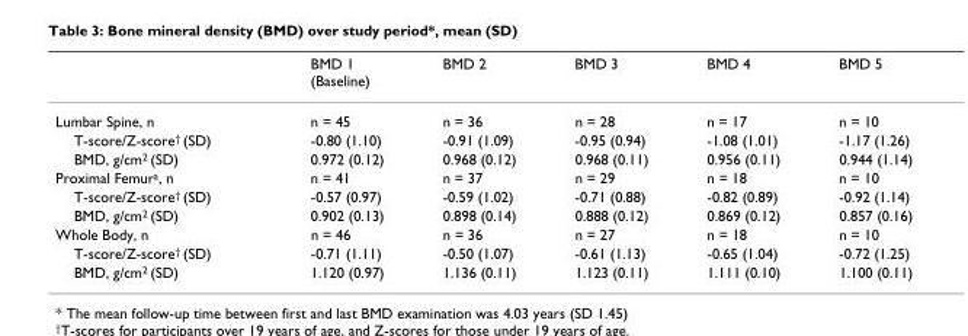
<table><thead><tr><td></td><td>BMD 1 (Baseline)</td><td>BMD 2</td><td>BMD 3</td><td>BMD 4</td><td>BMD 5</td></tr></thead><tbody><tr><td>Lumbar Spine, n</td><td>n = 45</td><td>n = 36</td><td>n = 28</td><td>n = 17</td><td>n = 10</td></tr><tr><td>T-score/Z-score<sup>†</sup> (SD)</td><td>-0.80 (1.10)</td><td>-0.91 (1.09)</td><td>-0.95 (0.94)</td><td>-1.08 (1.01)</td><td>-1.17 (1.26)</td></tr><tr><td>BMD, g/cm<sup>2</sup> (SD)</td><td>0.972 (0.12)</td><td>0.968 (0.12)</td><td>0.968 (0.11)</td><td>0.956 (0.11)</td><td>0.944 (1.14)</td></tr><tr><td>Proximal Femur<sup>a</sup>, n</td><td>n = 41</td><td>n = 37</td><td>n = 29</td><td>n = 18</td><td>n = 10</td></tr><tr><td>T-score/Z-score<sup>†</sup> (SD)</td><td>-0.57 (0.97)</td><td>-0.59 (1.02)</td><td>-0.71 (0.88)</td><td>-0.82 (0.89)</td><td>-0.92 (1.14)</td></tr><tr><td>BMD, g/cm<sup>2</sup> (SD)</td><td>0.902 (0.13)</td><td>0.898 (0.14)</td><td>0.888 (0.12)</td><td>0.869 (0.12)</td><td>0.857 (0.16)</td></tr><tr><td>Whole Body, n</td><td>n = 46</td><td>n = 36</td><td>n = 27</td><td>n = 18</td><td>n = 10</td></tr><tr><td>T-score/Z-score<sup>†</sup> (SD)</td><td>-0.71 (1.11)</td><td>-0.50 (1.07)</td><td>-0.61 (1.13)</td><td>-0.65 (1.04)</td><td>-0.72 (1.25)</td></tr><tr><td>BMD, g/cm<sup>2</sup> (SD)</td><td>1.120 (0.97)</td><td>1.136 (0.11)</td><td>1.123 (0.11)</td><td>1.111 (0.10)</td><td>1.100 (0.11)</td></tr></tbody></table>